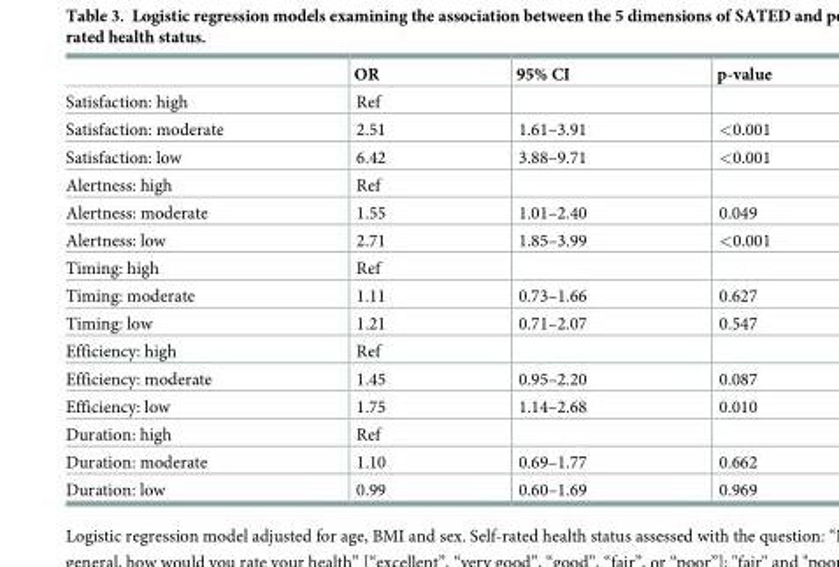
<table><thead><tr><td></td><td>OR</td><td>95% CI</td><td>p-value</td></tr></thead><tbody><tr><td>Satisfaction: high</td><td>Ref</td><td></td><td></td></tr><tr><td>Satisfaction: moderate</td><td>2.51</td><td>1.61–3.91</td><td>&lt;0.001</td></tr><tr><td>Satisfaction: low</td><td>6.42</td><td>3.88–9.71</td><td>&lt;0.001</td></tr><tr><td>Alertness: high</td><td>Ref</td><td></td><td></td></tr><tr><td>Alertness: moderate</td><td>1.55</td><td>1.01–2.40</td><td>0.049</td></tr><tr><td>Alertness: low</td><td>2.71</td><td>1.85–3.99</td><td>&lt;0.001</td></tr><tr><td>Timing: high</td><td>Ref</td><td></td><td></td></tr><tr><td>Timing: moderate</td><td>1.11</td><td>0.73–1.66</td><td>0.627</td></tr><tr><td>Timing: low</td><td>1.21</td><td>0.71–2.07</td><td>0.547</td></tr><tr><td>Efficiency: high</td><td>Ref</td><td></td><td></td></tr><tr><td>Efficiency: moderate</td><td>1.45</td><td>0.95–2.20</td><td>0.087</td></tr><tr><td>Efficiency: low</td><td>1.75</td><td>1.14–2.68</td><td>0.010</td></tr><tr><td>Duration: high</td><td>Ref</td><td></td><td></td></tr><tr><td>Duration: moderate</td><td>1.10</td><td>0.69–1.77</td><td>0.662</td></tr><tr><td>Duration: low</td><td>0.99</td><td>0.60–1.69</td><td>0.969</td></tr></tbody></table>